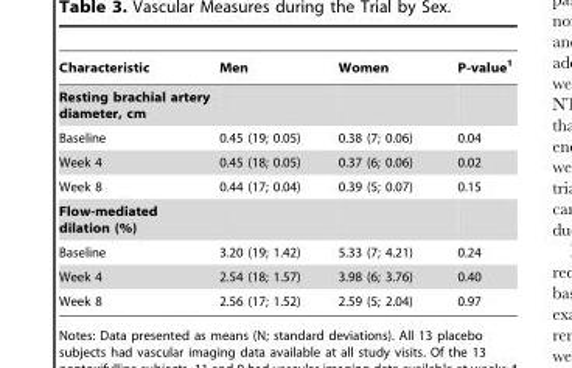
<table><thead><tr><td>Characteristic</td><td>Men</td><td>Women</td><td>P-value<sup>1</sup></td></tr></thead><tbody><tr><td colspan="4">Resting brachial artery diameter, cm</td></tr><tr><td>Baseline</td><td>0.45 (19; 0.05)</td><td>0.38 (7; 0.06)</td><td>0.04</td></tr><tr><td>Week 4</td><td>0.45 (18; 0.05)</td><td>0.37 (6; 0.06)</td><td>0.02</td></tr><tr><td>Week 8</td><td>0.44 (17; 0.04)</td><td>0.39 (5; 0.07)</td><td>0.15</td></tr><tr><td colspan="4">Flow-mediated dilation (%)</td></tr><tr><td>Baseline</td><td>3.20 (19; 1.42)</td><td>5.33 (7; 4.21)</td><td>0.24</td></tr><tr><td>Week 4</td><td>2.54 (18; 1.57)</td><td>3.98 (6; 3.76)</td><td>0.40</td></tr><tr><td>Week 8</td><td>2.56 (17; 1.52)</td><td>2.59 (5; 2.04)</td><td>0.97</td></tr></tbody></table>